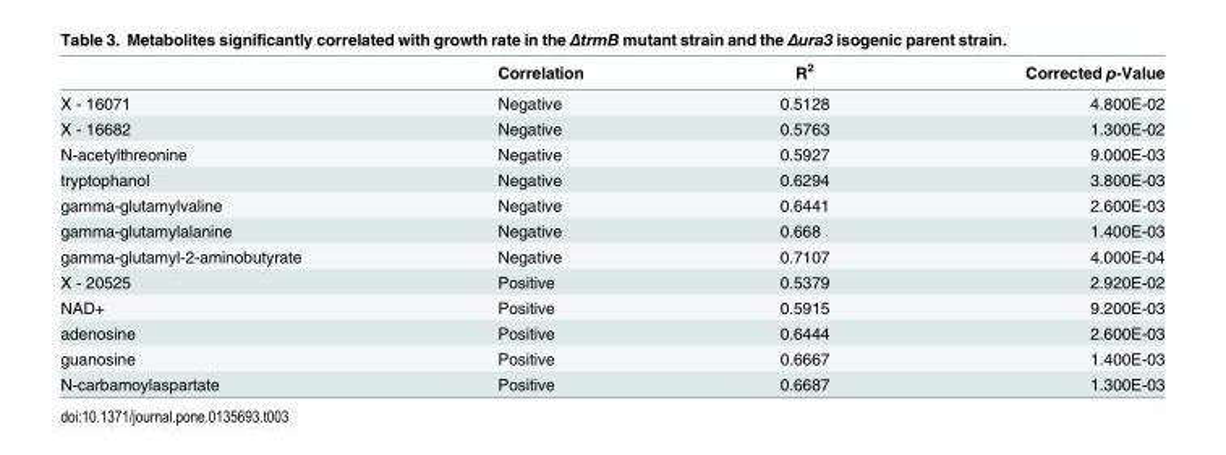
<table><thead><tr><td></td><td>Correlation</td><td>R<sup>2</sup></td><td>Corrected p-Value</td></tr></thead><tbody><tr><td>X - 16071</td><td>Negative</td><td>0.5128</td><td>4.800E-02</td></tr><tr><td>X - 16682</td><td>Negative</td><td>0.5763</td><td>1.300E-02</td></tr><tr><td>N-acetylthreonine</td><td>Negative</td><td>0.5927</td><td>9.000E-03</td></tr><tr><td>tryptophanol</td><td>Negative</td><td>0.6294</td><td>3.800E-03</td></tr><tr><td>gamma-glutamylvaline</td><td>Negative</td><td>0.6441</td><td>2.600E-03</td></tr><tr><td>gamma-glutamylalanine</td><td>Negative</td><td>0.668</td><td>1.400E-03</td></tr><tr><td>gamma-glutamyl-2-aminobutyrate</td><td>Negative</td><td>0.7107</td><td>4.000E-04</td></tr><tr><td>X - 20525</td><td>Positive</td><td>0.5379</td><td>2.920E-02</td></tr><tr><td>NAD+</td><td>Positive</td><td>0.5915</td><td>9.200E-03</td></tr><tr><td>adenosine</td><td>Positive</td><td>0.6444</td><td>2.600E-03</td></tr><tr><td>guanosine</td><td>Positive</td><td>0.6667</td><td>1.400E-03</td></tr><tr><td>N-carbamoylaspartate</td><td>Positive</td><td>0.6687</td><td>1.300E-03</td></tr></tbody></table>